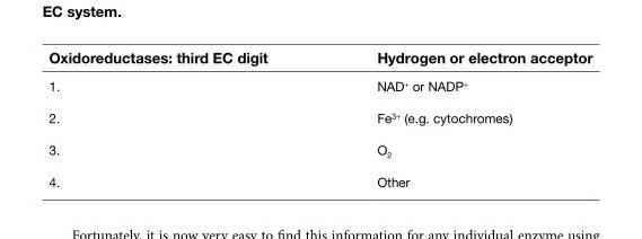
<table><thead><tr><td>Oxidoreductases: third EC digit</td><td>Hydrogen or electron acceptor</td></tr></thead><tbody><tr><td>1.</td><td>NAD<sup>+</sup> or NADP<sup>+</sup></td></tr><tr><td>2.</td><td>Fe<sup>3+</sup> (e.g. cytochromes)</td></tr><tr><td>3.</td><td>O<sub>2</sub></td></tr><tr><td>4.</td><td>Other</td></tr></tbody></table>